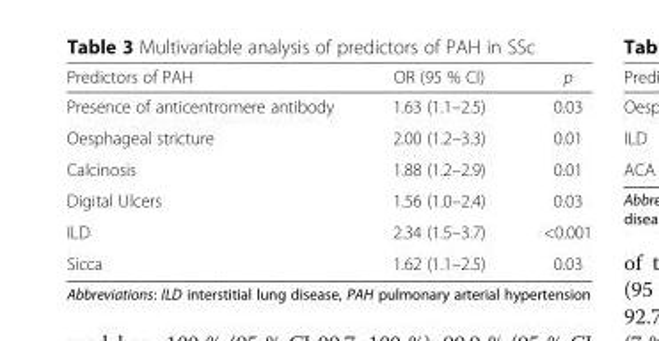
<table><thead><tr><td>Predictors of PAH</td><td>OR (95 % CI)</td><td>p</td></tr></thead><tbody><tr><td>Presence of anticentromere antibody</td><td>1.63 (1.1–2.5)</td><td>0.03</td></tr><tr><td>Oesphageal stricture</td><td>2.00 (1.2–3.3)</td><td>0.01</td></tr><tr><td>Calcinosis</td><td>1.88 (1.2–2.9)</td><td>0.01</td></tr><tr><td>Digital Ulcers</td><td>1.56 (1.0–2.4)</td><td>0.03</td></tr><tr><td>ILD</td><td>2.34 (1.5–3.7)</td><td>&lt;0.001</td></tr><tr><td>Sicca</td><td>1.62 (1.1–2.5)</td><td>0.03</td></tr></tbody></table>